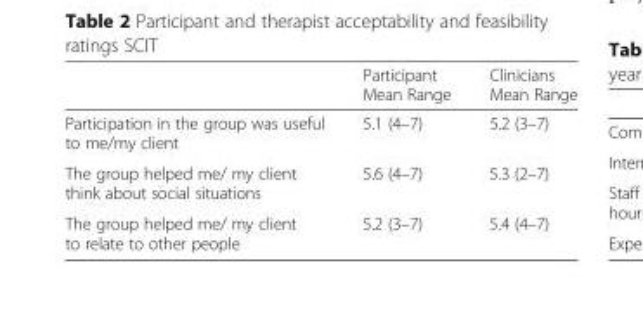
<table><thead><tr><td></td><td>Participant Mean Range</td><td>Clinicians Mean Range</td></tr></thead><tbody><tr><td>Participation in the group was useful to me/my client</td><td>5.1 (4–7)</td><td>5.2 (3–7)</td></tr><tr><td>The group helped me/ my client think about social situations</td><td>5.6 (4–7)</td><td>5.3 (2–7)</td></tr><tr><td>The group helped me/ my client to relate to other people</td><td>5.2 (3–7)</td><td>5.4 (4–7)</td></tr></tbody></table>